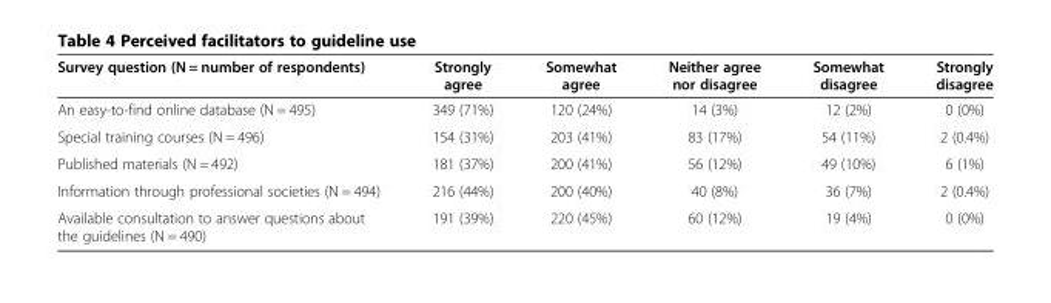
<table><thead><tr><td>Survey question (N = number of respondents)</td><td>Strongly agree</td><td>Somewhat agree</td><td>Neither agree nor disagree</td><td>Somewhat disagree</td><td>Strongly disagree</td></tr></thead><tbody><tr><td>An easy-to-find online database (N = 495)</td><td>349 (71%)</td><td>120 (24%)</td><td>14 (3%)</td><td>12 (2%)</td><td>0 (0%)</td></tr><tr><td>Special training courses (N = 496)</td><td>154 (31%)</td><td>203 (41%)</td><td>83 (17%)</td><td>54 (11%)</td><td>2 (0.4%)</td></tr><tr><td>Published materials (N = 492)</td><td>181 (37%)</td><td>200 (41%)</td><td>56 (12%)</td><td>49 (10%)</td><td>6 (1%)</td></tr><tr><td>Information through professional societies (N = 494)</td><td>216 (44%)</td><td>200 (40%)</td><td>40 (8%)</td><td>36 (7%)</td><td>2 (0.4%)</td></tr><tr><td>Available consultation to answer questions about the guidelines (N = 490)</td><td>191 (39%)</td><td>220 (45%)</td><td>60 (12%)</td><td>19 (4%)</td><td>0 (0%)</td></tr></tbody></table>